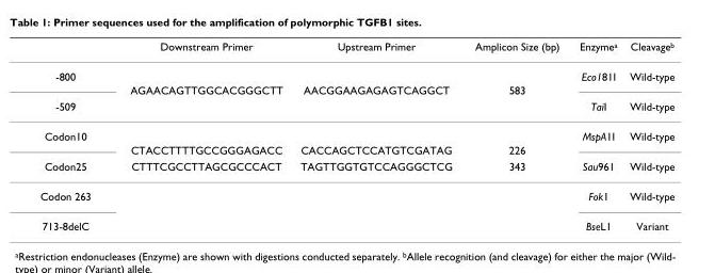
<table><thead><tr><td></td><td>Downstream Primer</td><td>Upstream Primer</td><td>Amplicon Size (bp)</td><td>Enzyme<sup>a</sup></td><td>Cleavage<sup>b</sup></td></tr></thead><tbody><tr><td rowspan="2">-800</td><td></td><td></td><td></td><td>Eco181I</td><td>Wild-type</td></tr><tr><td>AGAACAGTTGGCACGGGCTT</td><td>AACGGAAGAGAGTCAGGCT</td><td>583</td><td colspan="2"></td></tr><tr><td>-509</td><td></td><td></td><td></td><td>TaiI</td><td>Wild-type</td></tr><tr><td rowspan="2">Codon10</td><td></td><td></td><td></td><td>MspA1I</td><td>Wild-type</td></tr><tr><td>CTACCTTTTGCCGGGAGACC</td><td>CACCAGCTCCATGTCGATAG</td><td>226</td><td colspan="2"></td></tr><tr><td>Codon25</td><td>CTTTCGCCTTAGCGCCCACT</td><td>TAGTTGGTGTCCAGGGCTCG</td><td>343</td><td>Sau961</td><td>Wild-type</td></tr><tr><td>Codon 263</td><td></td><td></td><td></td><td>Fok1</td><td>Wild-type</td></tr><tr><td>713-8delC</td><td></td><td></td><td></td><td>BseL1</td><td>Variant</td></tr></tbody></table>